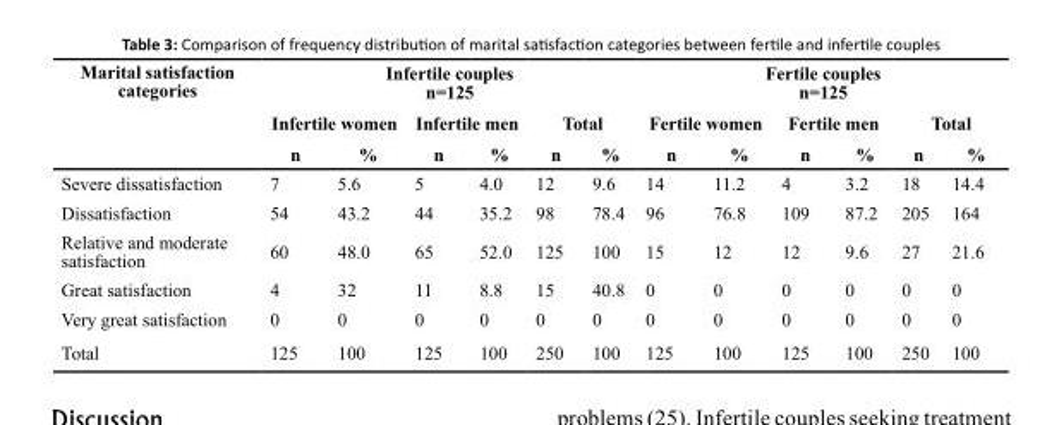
<table><thead><tr><td rowspan="3">Marital satisfaction categories</td><td colspan="6">Infertile couples n=125</td><td colspan="6">Fertile couples n=125</td></tr><tr><td colspan="2">Infertile women</td><td colspan="2">Infertile men</td><td colspan="2">Total</td><td colspan="2">Fertile women</td><td colspan="2">Fertile men</td><td colspan="2">Total</td></tr><tr><td>n</td><td>%</td><td>n</td><td>%</td><td>n</td><td>%</td><td>n</td><td>%</td><td>n</td><td>%</td><td>n</td><td>%</td></tr></thead><tbody><tr><td>Severe dissatisfaction</td><td>7</td><td>5.6</td><td>5</td><td>4.0</td><td>12</td><td>9.6</td><td>14</td><td>11.2</td><td>4</td><td>3.2</td><td>18</td><td>14.4</td></tr><tr><td>Dissatisfaction</td><td>54</td><td>43.2</td><td>44</td><td>35.2</td><td>98</td><td>78.4</td><td>96</td><td>76.8</td><td>109</td><td>87.2</td><td>205</td><td>164</td></tr><tr><td>Relative and moderate satisfaction</td><td>60</td><td>48.0</td><td>65</td><td>52.0</td><td>125</td><td>100</td><td>15</td><td>12</td><td>12</td><td>9.6</td><td>27</td><td>21.6</td></tr><tr><td>Great satisfaction</td><td>4</td><td>32</td><td>11</td><td>8.8</td><td>15</td><td>40.8</td><td>0</td><td>0</td><td>0</td><td>0</td><td>0</td><td>0</td></tr><tr><td>Very great satisfaction</td><td>0</td><td>0</td><td>0</td><td>0</td><td>0</td><td>0</td><td>0</td><td>0</td><td>0</td><td>0</td><td>0</td><td>0</td></tr><tr><td>Total</td><td>125</td><td>100</td><td>125</td><td>100</td><td>250</td><td>100</td><td>125</td><td>100</td><td>125</td><td>100</td><td>250</td><td>100</td></tr></tbody></table>